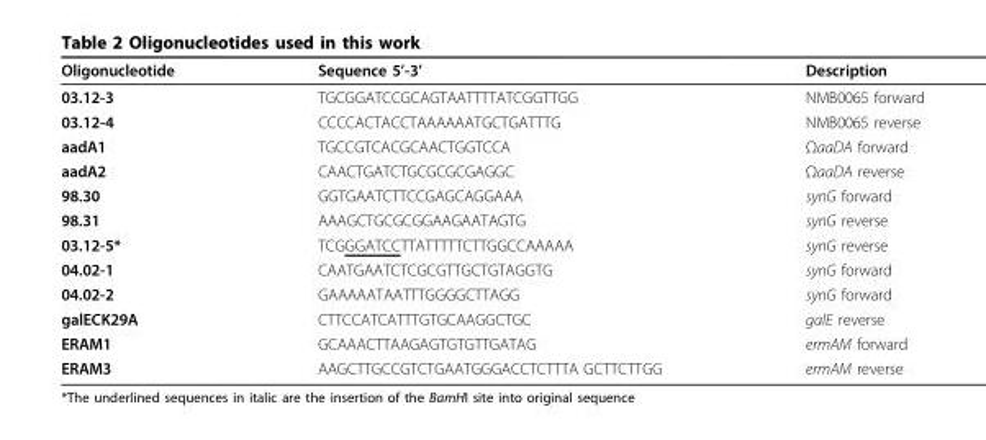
<table><thead><tr><td>Oligonucleotide</td><td>Sequence 5’-3’</td><td>Description</td></tr></thead><tbody><tr><td>03.12-3</td><td>TGCGGATCCGCAGTAATTTTATCGGTTGG</td><td>NMB0065 forward</td></tr><tr><td>03.12-4</td><td>CCCCACTACCTAAAAAATGCTGATTTG</td><td>NMB0065 reverse</td></tr><tr><td>aadA1</td><td>TGCCGTCACGCAACTGGTCCA</td><td>ΩaaDA forward</td></tr><tr><td>aadA2</td><td>CAACTGATCTGCGCGCGAGGC</td><td>ΩaaDA reverse</td></tr><tr><td>98.30</td><td>GGTGAATCTTCCGAGCAGGAAA</td><td>synG forward</td></tr><tr><td>98.31</td><td>AAAGCTGCGCGGAAGAATAGTG</td><td>synG reverse</td></tr><tr><td>03.12-5*</td><td>TCGGGATCCTTATTTTTCTTGGCCAAAAA</td><td>synG reverse</td></tr><tr><td>04.02-1</td><td>CAATGAATCTCGCGTTGCTGTAGGTG</td><td>synG forward</td></tr><tr><td>04.02-2</td><td>GAAAAATAATTTGGGGCTTAGG</td><td>synG forward</td></tr><tr><td>galECK29A</td><td>CTTCCATCATTTGTGCAAGGCTGC</td><td>galE reverse</td></tr><tr><td>ERAM1</td><td>GCAAACTTAAGAGTGTGTTGATAG</td><td>ermAM forward</td></tr><tr><td>ERAM3</td><td>AAGCTTGCCGTCTGAATGGGACCTCTTTA GCTTCTTGG</td><td>ermAM reverse</td></tr></tbody></table>